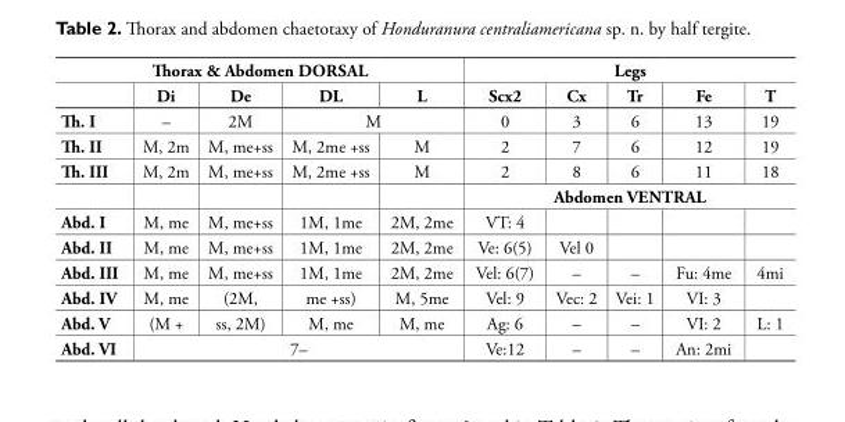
<table><thead><tr><td colspan="5">Thorax &amp; Abdomen DORSAL</td><td colspan="5">Legs</td></tr><tr><td></td><td>Di</td><td>De</td><td>DL</td><td>L</td><td>Scx2</td><td>Cx</td><td>Tr</td><td>Fe</td><td>T</td></tr></thead><tbody><tr><td>Th. I</td><td>–</td><td>2M</td><td colspan="2">M</td><td>0</td><td>3</td><td>6</td><td>13</td><td>19</td></tr><tr><td>Th. II</td><td>M, 2m</td><td>M, me+ss</td><td>M, 2me +ss</td><td>M</td><td>2</td><td>7</td><td>6</td><td>12</td><td>19</td></tr><tr><td rowspan="2">Th. III</td><td>M, 2m</td><td>M, me+ss</td><td>M, 2me +ss</td><td>M</td><td>2</td><td>8</td><td>6</td><td>11</td><td>18</td></tr><tr><td></td><td></td><td></td><td></td><td colspan="5">Abdomen VENTRAL</td></tr><tr><td>Abd. I</td><td>M, me</td><td>M, me+ss</td><td>1M, 1me</td><td>2M, 2me</td><td>VT: 4</td><td></td><td></td><td></td><td></td></tr><tr><td>Abd. II</td><td>M, me</td><td>M, me+ss</td><td>1M, 1me</td><td>2M, 2me</td><td>Ve: 6(5)</td><td>Vel 0</td><td></td><td></td><td></td></tr><tr><td>Abd. III</td><td>M, me</td><td>M, me+ss</td><td>1M, 1me</td><td>2M, 2me</td><td>Vel: 6(7)</td><td>–</td><td>–</td><td>Fu: 4me</td><td>4mi</td></tr><tr><td>Abd. IV</td><td>M, me</td><td>(2M,</td><td>me +ss)</td><td>M, 5me</td><td>Vel: 9</td><td>Vec: 2</td><td>Vei: 1</td><td>VI: 3</td><td></td></tr><tr><td>Abd. V</td><td>(M +</td><td>ss, 2M)</td><td>M, me</td><td>M, me</td><td>Ag: 6</td><td>–</td><td>–</td><td>VI: 2</td><td>L: 1</td></tr><tr><td>Abd. VI</td><td colspan="4">7–</td><td>Ve:12</td><td>–</td><td>–</td><td>An: 2mi</td><td></td></tr></tbody></table>